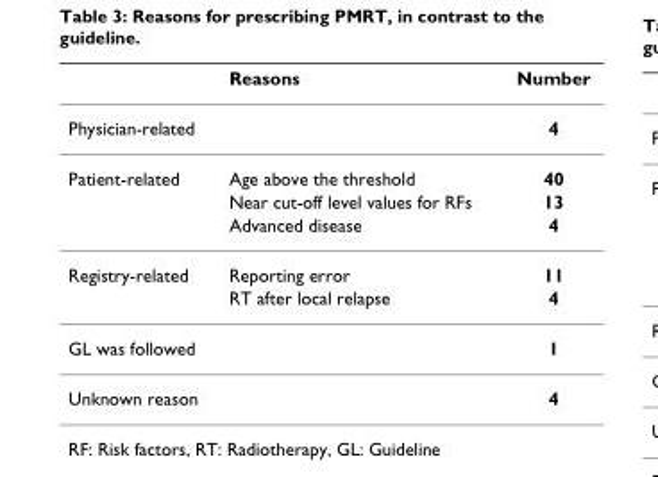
<table><thead><tr><td></td><td>Reasons</td><td>Number</td></tr></thead><tbody><tr><td>Physician-related</td><td></td><td>4</td></tr><tr><td rowspan="3">Patient-related</td><td>Age above the threshold</td><td>40</td></tr><tr><td>Near cut-off level values for RFs</td><td>13</td></tr><tr><td>Advanced disease</td><td>4</td></tr><tr><td rowspan="2">Registry-related</td><td>Reporting error</td><td>11</td></tr><tr><td>RT after local relapse</td><td>4</td></tr><tr><td>GL was followed</td><td></td><td>1</td></tr><tr><td>Unknown reason</td><td></td><td>4</td></tr></tbody></table>